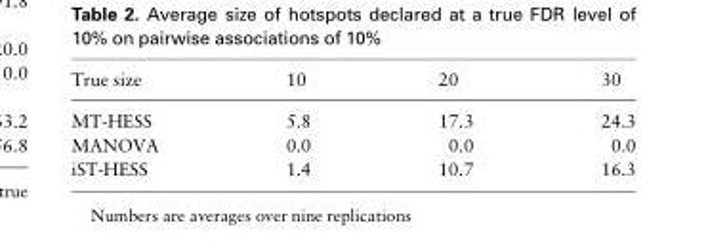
<table><thead><tr><td>True size</td><td>10</td><td>20</td><td>30</td></tr></thead><tbody><tr><td>MT-HESS</td><td>5.8</td><td>17.3</td><td>24.3</td></tr><tr><td>MANOVA</td><td>0.0</td><td>0.0</td><td>0.0</td></tr><tr><td>iST-HESS</td><td>1.4</td><td>10.7</td><td>16.3</td></tr></tbody></table>